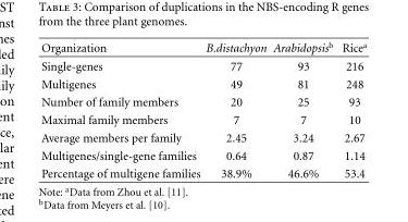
<table><thead><tr><td>Organization</td><td>B.distachyon</td><td>Arabidopsis<sup>b</sup></td><td>Rice<sup>a</sup></td></tr></thead><tbody><tr><td>Single-genes</td><td>77</td><td>93</td><td>216</td></tr><tr><td>Multigenes</td><td>49</td><td>81</td><td>248</td></tr><tr><td>Number of family members</td><td>20</td><td>25</td><td>93</td></tr><tr><td>Maximal family members</td><td>7</td><td>7</td><td>10</td></tr><tr><td>Average members per family</td><td>2.45</td><td>3.24</td><td>2.67</td></tr><tr><td>Multigenes/single-gene families</td><td>0.64</td><td>0.87</td><td>1.14</td></tr><tr><td>Percentage of multigene families</td><td>38.9%</td><td>46.6%</td><td>53.4</td></tr></tbody></table>